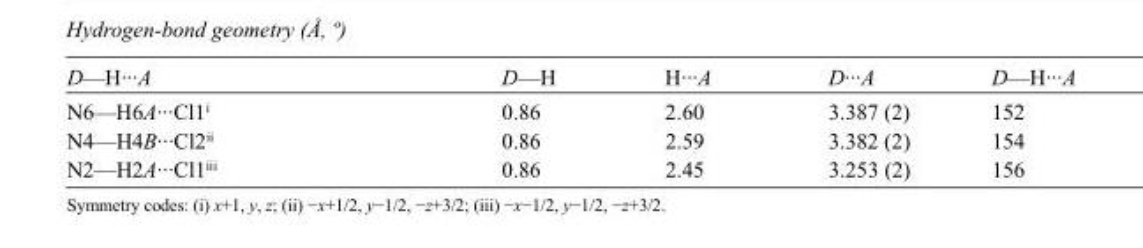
<table><tbody><tr><td>D—H···A</td><td>D—H</td><td>H···A</td><td>D···A</td><td>D—H···A</td></tr><tr><td>N6—H6A···Cl1<sup>i</sup></td><td>0.86</td><td>2.60</td><td>3.387 (2)</td><td>152</td></tr><tr><td>N4—H4B···Cl2<sup>ii</sup></td><td>0.86</td><td>2.59</td><td>3.382 (2)</td><td>154</td></tr><tr><td>N2—H2A···Cl1<sup>iii</sup></td><td>0.86</td><td>2.45</td><td>3.253 (2)</td><td>156</td></tr></tbody></table>